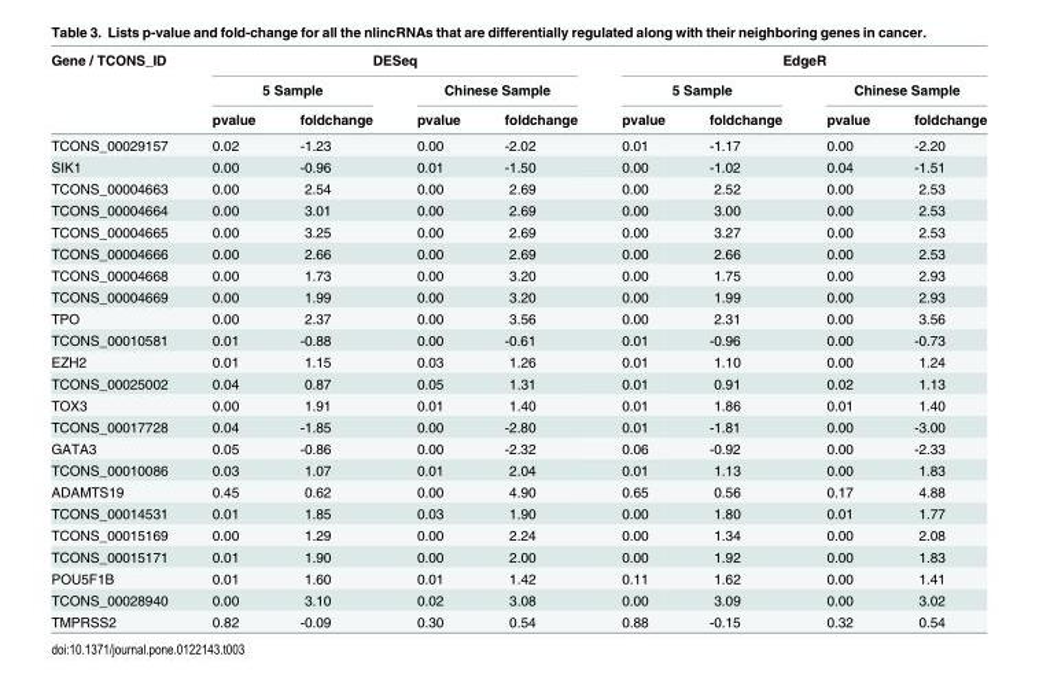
<table><thead><tr><td rowspan="3">Gene / TCONS_ID</td><td colspan="4">DESeq</td><td colspan="4">EdgeR</td></tr><tr><td colspan="2">5 Sample</td><td colspan="2">Chinese Sample</td><td colspan="2">5 Sample</td><td colspan="2">Chinese Sample</td></tr><tr><td>pvalue</td><td>foldchange</td><td>pvalue</td><td>foldchange</td><td>pvalue</td><td>foldchange</td><td>pvalue</td><td>foldchange</td></tr></thead><tbody><tr><td>TCONS_00029157</td><td>0.02</td><td>-1.23</td><td>0.00</td><td>-2.02</td><td>0.01</td><td>-1.17</td><td>0.00</td><td>-2.20</td></tr><tr><td>SIK1</td><td>0.00</td><td>-0.96</td><td>0.01</td><td>-1.50</td><td>0.00</td><td>-1.02</td><td>0.04</td><td>-1.51</td></tr><tr><td>TCONS_00004663</td><td>0.00</td><td>2.54</td><td>0.00</td><td>2.69</td><td>0.00</td><td>2.52</td><td>0.00</td><td>2.53</td></tr><tr><td>TCONS_00004664</td><td>0.00</td><td>3.01</td><td>0.00</td><td>2.69</td><td>0.00</td><td>3.00</td><td>0.00</td><td>2.53</td></tr><tr><td>TCONS_00004665</td><td>0.00</td><td>3.25</td><td>0.00</td><td>2.69</td><td>0.00</td><td>3.27</td><td>0.00</td><td>2.53</td></tr><tr><td>TCONS_00004666</td><td>0.00</td><td>2.66</td><td>0.00</td><td>2.69</td><td>0.00</td><td>2.66</td><td>0.00</td><td>2.53</td></tr><tr><td>TCONS_00004668</td><td>0.00</td><td>1.73</td><td>0.00</td><td>3.20</td><td>0.00</td><td>1.75</td><td>0.00</td><td>2.93</td></tr><tr><td>TCONS_00004669</td><td>0.00</td><td>1.99</td><td>0.00</td><td>3.20</td><td>0.00</td><td>1.99</td><td>0.00</td><td>2.93</td></tr><tr><td>TPO</td><td>0.00</td><td>2.37</td><td>0.00</td><td>3.56</td><td>0.00</td><td>2.31</td><td>0.00</td><td>3.56</td></tr><tr><td>TCONS_00010581</td><td>0.01</td><td>-0.88</td><td>0.00</td><td>-0.61</td><td>0.01</td><td>-0.96</td><td>0.00</td><td>-0.73</td></tr><tr><td>EZH2</td><td>0.01</td><td>1.15</td><td>0.03</td><td>1.26</td><td>0.01</td><td>1.10</td><td>0.00</td><td>1.24</td></tr><tr><td>TCONS_00025002</td><td>0.04</td><td>0.87</td><td>0.05</td><td>1.31</td><td>0.01</td><td>0.91</td><td>0.02</td><td>1.13</td></tr><tr><td>TOX3</td><td>0.00</td><td>1.91</td><td>0.01</td><td>1.40</td><td>0.01</td><td>1.86</td><td>0.01</td><td>1.40</td></tr><tr><td>TCONS_00017728</td><td>0.04</td><td>-1.85</td><td>0.00</td><td>-2.80</td><td>0.01</td><td>-1.81</td><td>0.00</td><td>-3.00</td></tr><tr><td>GATA3</td><td>0.05</td><td>-0.86</td><td>0.00</td><td>-2.32</td><td>0.06</td><td>-0.92</td><td>0.00</td><td>-2.33</td></tr><tr><td>TCONS_00010086</td><td>0.03</td><td>1.07</td><td>0.01</td><td>2.04</td><td>0.01</td><td>1.13</td><td>0.00</td><td>1.83</td></tr><tr><td>ADAMTS19</td><td>0.45</td><td>0.62</td><td>0.00</td><td>4.90</td><td>0.65</td><td>0.56</td><td>0.17</td><td>4.88</td></tr><tr><td>TCONS_00014531</td><td>0.01</td><td>1.85</td><td>0.03</td><td>1.90</td><td>0.00</td><td>1.80</td><td>0.01</td><td>1.77</td></tr><tr><td>TCONS_00015169</td><td>0.00</td><td>1.29</td><td>0.00</td><td>2.24</td><td>0.00</td><td>1.34</td><td>0.00</td><td>2.08</td></tr><tr><td>TCONS_00015171</td><td>0.01</td><td>1.90</td><td>0.00</td><td>2.00</td><td>0.00</td><td>1.92</td><td>0.00</td><td>1.83</td></tr><tr><td>POU5F1B</td><td>0.01</td><td>1.60</td><td>0.01</td><td>1.42</td><td>0.11</td><td>1.62</td><td>0.00</td><td>1.41</td></tr><tr><td>TCONS_00028940</td><td>0.00</td><td>3.10</td><td>0.02</td><td>3.08</td><td>0.00</td><td>3.09</td><td>0.00</td><td>3.02</td></tr><tr><td>TMPRSS2</td><td>0.82</td><td>-0.09</td><td>0.30</td><td>0.54</td><td>0.88</td><td>-0.15</td><td>0.32</td><td>0.54</td></tr></tbody></table>